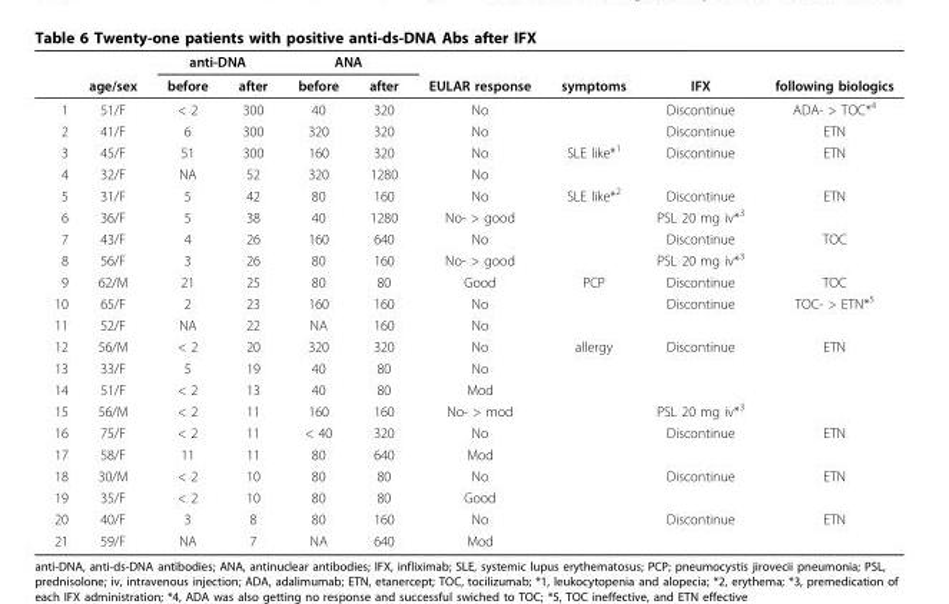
<table><thead><tr><td rowspan="2"></td><td rowspan="2">age/sex</td><td colspan="2">anti-DNA</td><td colspan="2">ANA</td><td rowspan="2">EULAR response</td><td rowspan="2">symptoms</td><td rowspan="2">IFX</td><td rowspan="2">following biologics</td></tr><tr><td>before</td><td>after</td><td>before</td><td>after</td></tr></thead><tbody><tr><td>1</td><td>51/F</td><td>&lt; 2</td><td>300</td><td>40</td><td>320</td><td>No</td><td></td><td>Discontinue</td><td>ADA- &gt; TOC*<sup>4</sup></td></tr><tr><td>2</td><td>41/F</td><td>6</td><td>300</td><td>320</td><td>320</td><td>No</td><td></td><td>Discontinue</td><td>ETN</td></tr><tr><td>3</td><td>45/F</td><td>51</td><td>300</td><td>160</td><td>320</td><td>No</td><td>SLE like*<sup>1</sup></td><td>Discontinue</td><td>ETN</td></tr><tr><td>4</td><td>32/F</td><td>NA</td><td>52</td><td>320</td><td>1280</td><td>No</td><td></td><td></td><td></td></tr><tr><td>5</td><td>31/F</td><td>5</td><td>42</td><td>80</td><td>160</td><td>No</td><td>SLE like*<sup>2</sup></td><td>Discontinue</td><td>ETN</td></tr><tr><td>6</td><td>36/F</td><td>5</td><td>38</td><td>40</td><td>1280</td><td>No- &gt; good</td><td></td><td>PSL 20 mg iv*<sup>3</sup></td><td></td></tr><tr><td>7</td><td>43/F</td><td>4</td><td>26</td><td>160</td><td>640</td><td>No</td><td></td><td>Discontinue</td><td>TOC</td></tr><tr><td>8</td><td>56/F</td><td>3</td><td>26</td><td>80</td><td>160</td><td>No- &gt; good</td><td></td><td>PSL 20 mg iv*<sup>3</sup></td><td></td></tr><tr><td>9</td><td>62/M</td><td>21</td><td>25</td><td>80</td><td>80</td><td>Good</td><td>PCP</td><td>Discontinue</td><td>TOC</td></tr><tr><td>10</td><td>65/F</td><td>2</td><td>23</td><td>160</td><td>160</td><td>No</td><td></td><td>Discontinue</td><td>TOC- &gt; ETN*<sup>5</sup></td></tr><tr><td>11</td><td>52/F</td><td>NA</td><td>22</td><td>NA</td><td>160</td><td>No</td><td></td><td></td><td></td></tr><tr><td>12</td><td>56/M</td><td>&lt; 2</td><td>20</td><td>320</td><td>320</td><td>No</td><td>allergy</td><td>Discontinue</td><td>ETN</td></tr><tr><td>13</td><td>33/F</td><td>5</td><td>19</td><td>40</td><td>80</td><td>No</td><td></td><td></td><td></td></tr><tr><td>14</td><td>51/F</td><td>&lt; 2</td><td>13</td><td>40</td><td>80</td><td>Mod</td><td></td><td></td><td></td></tr><tr><td>15</td><td>56/M</td><td>&lt; 2</td><td>11</td><td>160</td><td>160</td><td>No- &gt; mod</td><td></td><td>PSL 20 mg iv*<sup>3</sup></td><td></td></tr><tr><td>16</td><td>75/F</td><td>&lt; 2</td><td>11</td><td>&lt; 40</td><td>320</td><td>No</td><td></td><td>Discontinue</td><td>ETN</td></tr><tr><td>17</td><td>58/F</td><td>11</td><td>11</td><td>80</td><td>640</td><td>Mod</td><td></td><td></td><td></td></tr><tr><td>18</td><td>30/M</td><td>&lt; 2</td><td>10</td><td>80</td><td>80</td><td>No</td><td></td><td>Discontinue</td><td>ETN</td></tr><tr><td>19</td><td>35/F</td><td>&lt; 2</td><td>10</td><td>80</td><td>80</td><td>Good</td><td></td><td></td><td></td></tr><tr><td>20</td><td>40/F</td><td>3</td><td>8</td><td>80</td><td>160</td><td>No</td><td></td><td>Discontinue</td><td>ETN</td></tr><tr><td>21</td><td>59/F</td><td>NA</td><td>7</td><td>NA</td><td>640</td><td>Mod</td><td></td><td></td><td></td></tr></tbody></table>